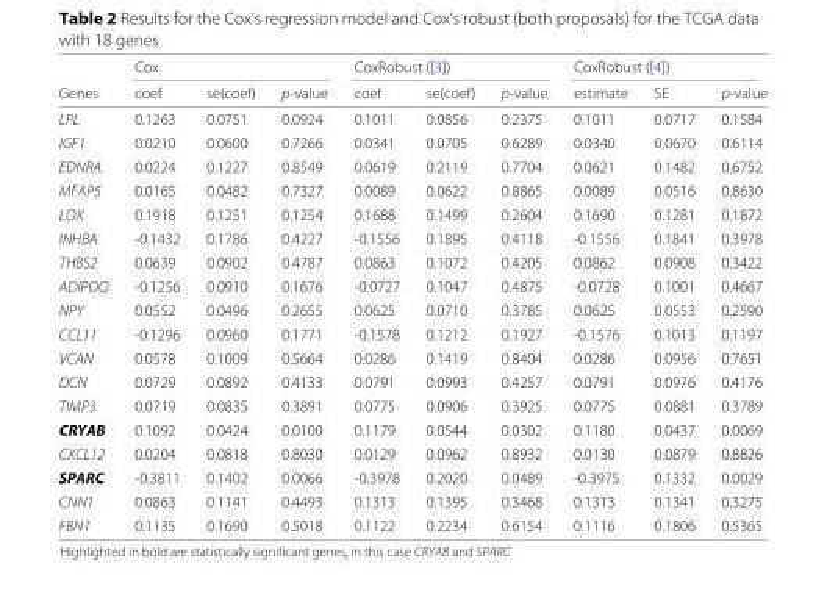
<table><thead><tr><td rowspan="2">Genes</td><td colspan="3">Cox</td><td colspan="3">CoxRobust ([3])</td><td colspan="3">CoxRobust ([4])</td></tr><tr><td>coef</td><td>se(coef)</td><td>p-value</td><td>coef</td><td>se(coef)</td><td>p-value</td><td>estimate</td><td>SE</td><td>p-value</td></tr></thead><tbody><tr><td>LPL</td><td>0.1263</td><td>0.0751</td><td>0.0924</td><td>0.1011</td><td>0.0856</td><td>0.2375</td><td>0.1011</td><td>0.0717</td><td>0.1584</td></tr><tr><td>IGF1</td><td>0.0210</td><td>0.0600</td><td>0.7266</td><td>0.0341</td><td>0.0705</td><td>0.6289</td><td>0.0340</td><td>0.0670</td><td>0.6114</td></tr><tr><td>EDNRA</td><td>0.0224</td><td>0.1227</td><td>0.8549</td><td>0.0619</td><td>0.2119</td><td>0.7704</td><td>0.0621</td><td>0.1482</td><td>0.6752</td></tr><tr><td>MFAP5</td><td>0.0165</td><td>0.0482</td><td>0.7327</td><td>0.0089</td><td>0.0622</td><td>0.8865</td><td>0.0089</td><td>0.0516</td><td>0.8630</td></tr><tr><td>LOX</td><td>0.1918</td><td>0.1251</td><td>0.1254</td><td>0.1688</td><td>0.1499</td><td>0.2604</td><td>0.1690</td><td>0.1281</td><td>0.1872</td></tr><tr><td>INHBA</td><td>-0.1432</td><td>0.1786</td><td>0.4227</td><td>-0.1556</td><td>0.1895</td><td>0.4118</td><td>-0.1556</td><td>0.1841</td><td>0.3978</td></tr><tr><td>THBS2</td><td>0.0639</td><td>0.0902</td><td>0.4787</td><td>0.0863</td><td>0.1072</td><td>0.4205</td><td>0.0862</td><td>0.0908</td><td>0.3422</td></tr><tr><td>ADIPOQ</td><td>-0.1256</td><td>0.0910</td><td>0.1676</td><td>-0.0727</td><td>0.1047</td><td>0.4875</td><td>-0.0728</td><td>0.1001</td><td>0.4667</td></tr><tr><td>NPY</td><td>0.0552</td><td>0.0496</td><td>0.2655</td><td>0.0625</td><td>0.0710</td><td>0.3785</td><td>0.0625</td><td>0.0553</td><td>0.2590</td></tr><tr><td>CCL11</td><td>-0.1296</td><td>0.0960</td><td>0.1771</td><td>-0.1578</td><td>0.1212</td><td>0.1927</td><td>-0.1576</td><td>0.1013</td><td>0.1197</td></tr><tr><td>VCAN</td><td>0.0578</td><td>0.1009</td><td>0.5664</td><td>0.0286</td><td>0.1419</td><td>0.8404</td><td>0.0286</td><td>0.0956</td><td>0.7651</td></tr><tr><td>DCN</td><td>0.0729</td><td>0.0892</td><td>0.4133</td><td>0.0791</td><td>0.0993</td><td>0.4257</td><td>0.0791</td><td>0.0976</td><td>0.4176</td></tr><tr><td>TIMP3</td><td>0.0719</td><td>0.0835</td><td>0.3891</td><td>0.0775</td><td>0.0906</td><td>0.3925</td><td>0.0775</td><td>0.0881</td><td>0.3789</td></tr><tr><td>CRYAB</td><td>0.1092</td><td>0.0424</td><td>0.0100</td><td>0.1179</td><td>0.0544</td><td>0.0302</td><td>0.1180</td><td>0.0437</td><td>0.0069</td></tr><tr><td>CXCL12</td><td>0.0204</td><td>0.0818</td><td>0.8030</td><td>0.0129</td><td>0.0962</td><td>0.8932</td><td>0.0130</td><td>0.0879</td><td>0.8826</td></tr><tr><td>SPARC</td><td>-0.3811</td><td>0.1402</td><td>0.0066</td><td>-0.3978</td><td>0.2020</td><td>0.0489</td><td>-0.3975</td><td>0.1332</td><td>0.0029</td></tr><tr><td>CNN1</td><td>0.0863</td><td>0.1141</td><td>0.4493</td><td>0.1313</td><td>0.1395</td><td>0.3468</td><td>0.1313</td><td>0.1341</td><td>0.3275</td></tr><tr><td>FBN1</td><td>0.1135</td><td>0.1690</td><td>0.5018</td><td>0.1122</td><td>0.2234</td><td>0.6154</td><td>0.1116</td><td>0.1806</td><td>0.5365</td></tr></tbody></table>